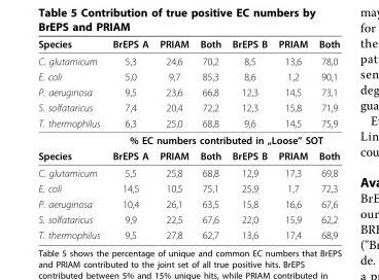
<table><thead><tr><td>Species</td><td>BrEPS A</td><td>PRIAM</td><td>Both</td><td>BrEPS B</td><td>PRIAM</td><td>Both</td></tr></thead><tbody><tr><td>C. glutamicum</td><td>5,3</td><td>24,6</td><td>70,2</td><td>8,5</td><td>13,6</td><td>78,0</td></tr><tr><td>E. coli</td><td>5,0</td><td>9,7</td><td>85,3</td><td>8,6</td><td>1,2</td><td>90,1</td></tr><tr><td>P. aeruginosa</td><td>9,5</td><td>23,6</td><td>66,8</td><td>12,3</td><td>14,5</td><td>73,1</td></tr><tr><td>S. solfataricus</td><td>7,4</td><td>20,4</td><td>72,2</td><td>12,3</td><td>15,8</td><td>71,9</td></tr><tr><td rowspan="2">T. thermophilus</td><td>6,3</td><td>25,0</td><td>68,8</td><td>9,6</td><td>14,5</td><td>75,9</td></tr><tr><td colspan="6">% EC numbers contributed in „Loose” SOT</td></tr><tr><td>Species</td><td>BrEPS A</td><td>PRIAM</td><td>Both</td><td>BrEPS B</td><td>PRIAM</td><td>Both</td></tr><tr><td>C. glutamicum</td><td>5,5</td><td>25,8</td><td>68,8</td><td>12,9</td><td>17,3</td><td>69,8</td></tr><tr><td>E. coli</td><td>14,5</td><td>10,5</td><td>75,1</td><td>25,9</td><td>1,7</td><td>72,3</td></tr><tr><td>P. aeruginosa</td><td>10,4</td><td>26,1</td><td>63,5</td><td>15,8</td><td>16,6</td><td>67,6</td></tr><tr><td>S. solfataricus</td><td>9,9</td><td>22,5</td><td>67,6</td><td>22,0</td><td>15,9</td><td>62,2</td></tr><tr><td>T. thermophilus</td><td>9,5</td><td>27,8</td><td>62,7</td><td>13,6</td><td>17,4</td><td>68,9</td></tr></tbody></table>